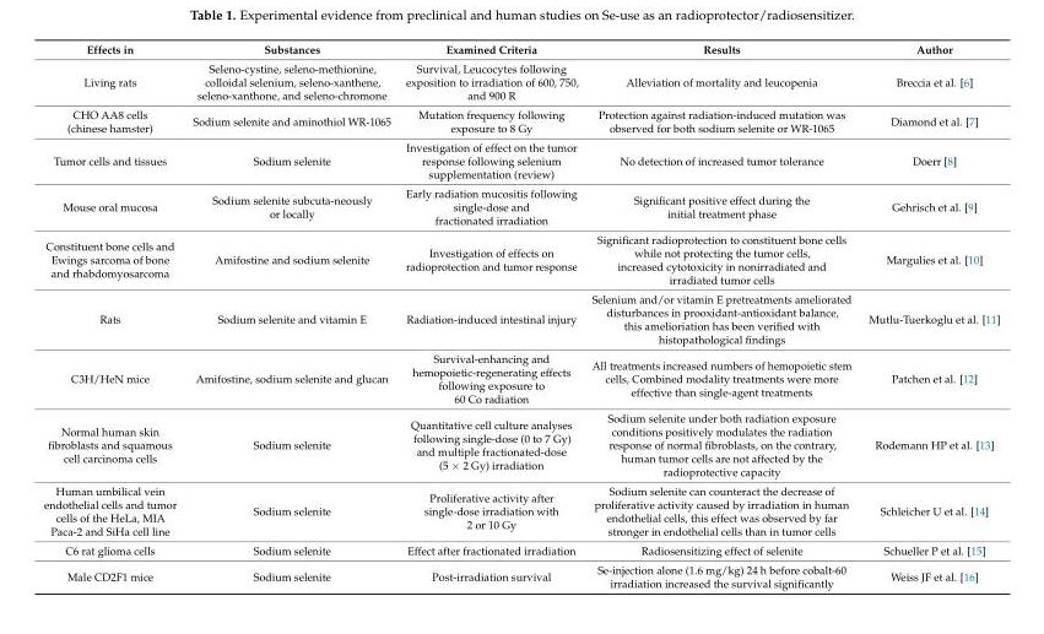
<table><thead><tr><td>Effects in</td><td>Substances</td><td>Examined Criteria</td><td>Results</td><td>Author</td></tr></thead><tbody><tr><td>Living rats</td><td>Seleno-cystine, seleno-methionine, colloidal selenium, seleno-xanthene, seleno-xanthone, and seleno-chromone</td><td>Survival, Leucocytes following exposition to irradiation of 600, 750, and 900 R</td><td>Alleviation of mortality and leucopenia</td><td>Breccia et al. [6]</td></tr><tr><td>CHO AA8 cells (chinese hamster)</td><td>Sodium selenite and aminothiol WR-1065</td><td>Mutation frequency following exposure to 8 Gy</td><td>Protection against radiation-induced mutation was observed for both sodium selenite or WR-1065</td><td>Diamond et al. [7]</td></tr><tr><td>Tumor cells and tissues</td><td>Sodium selenite</td><td>Investigation of effect on the tumor response following selenium supplementation (review)</td><td>No detection of increased tumor tolerance</td><td>Doerr [8]</td></tr><tr><td>Mouse oral mucosa</td><td>Sodium selenite subcuta-neously or locally</td><td>Early radiation mucositis following single-dose and fractionated irradiation</td><td>Significant positive effect during the initial treatment phase</td><td>Gehrisch et al. [9]</td></tr><tr><td>Constituent bone cells and Ewings sarcoma of bone and rhabdomyosarcoma</td><td>Amifostine and sodium selenite</td><td>Investigation of effects on radioprotection and tumor response</td><td>Significant radioprotection to constituent bone cells while not protecting the tumor cells, increased cytotoxicity in nonirradiated and irradiated tumor cells</td><td>Margulies et al. [10]</td></tr><tr><td>Rats</td><td>Sodium selenite and vitamin E</td><td>Radiation-induced intestinal injury</td><td>Selenium and/or vitamin E pretreatments ameliorated disturbances in prooxidant-antioxidant balance, this amelioriation has been verified with histopathological findings</td><td>Mutlu-Tuerkoglu et al. [11]</td></tr><tr><td>C3H/HeN mice</td><td>Amifostine, sodium selenite and glucan</td><td>Survival-enhancing and hemopoietic-regenerating effects following exposure to 60 Co radiation</td><td>All treatments increased numbers of hemopoietic stem cells, Combined modality treatments were more effective than single-agent treatments</td><td>Patchen et al. [12]</td></tr><tr><td>Normal human skin fibroblasts and squamous cell carcinoma cells</td><td>Sodium selenite</td><td>Quantitative cell culture analyses following single-dose (0 to 7 Gy) and multiple fractionated-dose (5 × 2 Gy) irradiation</td><td>Sodium selenite under both radiation exposure conditions positively modulates the radiation response of normal fibroblasts, on the contrary, human tumor cells are not affected by the radioprotective capacity</td><td>Rodemann HP et al. [13]</td></tr><tr><td>Human umbilical vein endothelial cells and tumor cells of the HeLa, MIA Paca-2 and SiHa cell line</td><td>Sodium selenite</td><td>Proliferative activity after single-dose irradiation with 2 or 10 Gy</td><td>Sodium selenite can counteract the decrease of proliferative activity caused by irradiation in human endothelial cells, this effect was observed by far stronger in endothelial cells than in tumor cells</td><td>Schleicher U et al. [14]</td></tr><tr><td>C6 rat glioma cells</td><td>Sodium selenite</td><td>Effect after fractionated irradiation</td><td>Radiosensitizing effect of selenite</td><td>Schueller P et al. [15]</td></tr><tr><td>Male CD2F1 mice</td><td>Sodium selenite</td><td>Post-irradiation survival</td><td>Se-injection alone (1.6 mg/kg) 24 h before cobalt-60 irradiation increased the survival significantly</td><td>Weiss JF et al. [16]</td></tr></tbody></table>